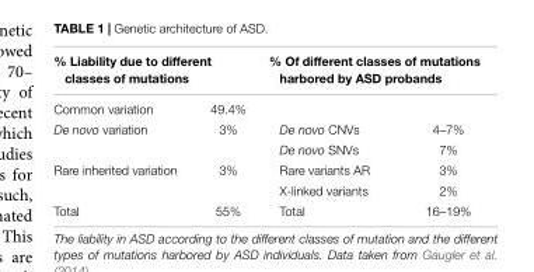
<table><thead><tr><td colspan="2">% Liability due to different classes of mutations</td><td colspan="2">% Of different classes of mutations harbored by ASD probands</td></tr><tr><td>Common variation</td><td>49.4%</td><td></td><td></td></tr></thead><tbody><tr><td rowspan="2">De novo variation</td><td>3%</td><td>De novo CNVs</td><td>4–7%</td></tr><tr><td></td><td>De novo SNVs</td><td>7%</td></tr><tr><td rowspan="2">Rare inherited variation</td><td>3%</td><td>Rare variants AR</td><td>3%</td></tr><tr><td></td><td>X-linked variants</td><td>2%</td></tr><tr><td>Total</td><td>55%</td><td>Total</td><td>16–19%</td></tr></tbody></table>